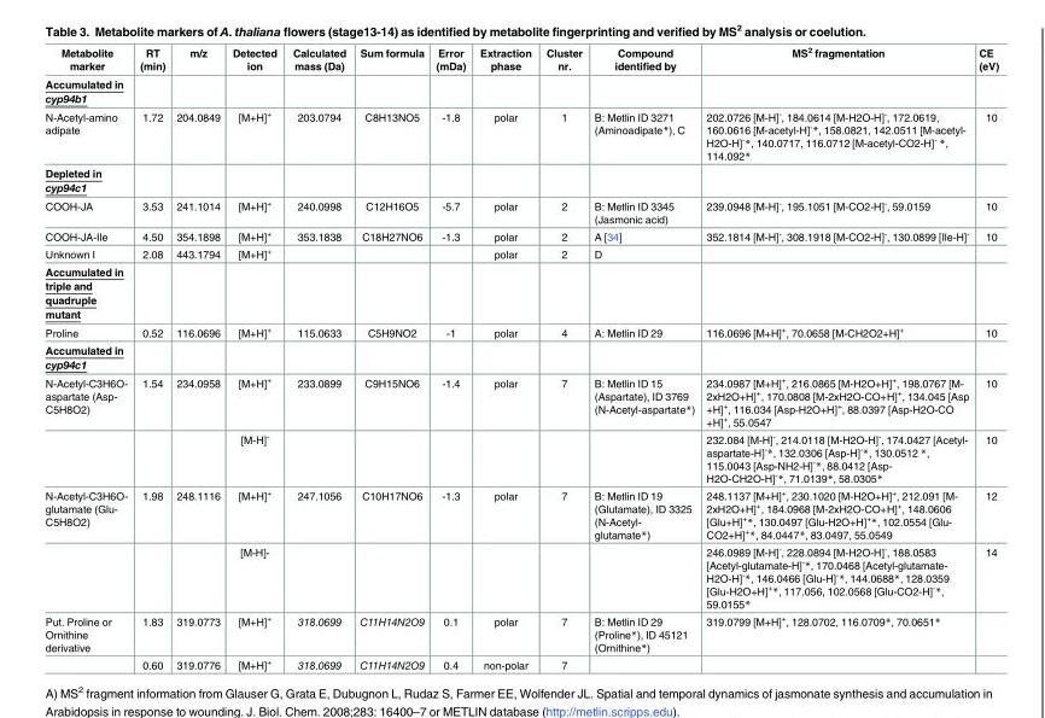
<table><thead><tr><td>Metabolite marker</td><td>RT (min)</td><td>m/z</td><td>Detected ion</td><td>Calculated mass (Da)</td><td>Sum formula</td><td>Error (mDa)</td><td>Extraction phase</td><td>Cluster nr.</td><td>Compound identified by</td><td>MS<sup>2</sup> fragmentation</td><td>CE (eV)</td></tr></thead><tbody><tr><td colspan="12">Accumulated in cyp94b1</td></tr><tr><td>N-Acetyl-amino adipate</td><td>1.72</td><td>204.0849</td><td>[M+H]<sup>+</sup></td><td>203.0794</td><td>C8H13NO5</td><td>-1.8</td><td>polar</td><td>1</td><td>B: Metlin ID 3271 (Aminoadipate*), C</td><td>202.0726 [M-H]<sup>-</sup>, 184.0614 [M-H2O-H]<sup>-</sup>, 172.0619, 160.0616 [M-acetyl-H]<sup>-</sup>*, 158.0821, 142.0511 [M-acetyl- H2O-H]<sup>-</sup>*, 140.0717, 116.0712 [M-acetyl-CO2-H]<sup>-</sup> *, 114.092*</td><td>10</td></tr><tr><td colspan="12">Depleted in cyp94c1</td></tr><tr><td>COOH-JA</td><td>3.53</td><td>241.1014</td><td>[M+H]<sup>+</sup></td><td>240.0998</td><td>C12H16O5</td><td>-5.7</td><td>polar</td><td>2</td><td>B: Metlin ID 3345 (Jasmonic acid)</td><td>239.0948 [M-H]<sup>-</sup>, 195.1051 [M-CO2-H]<sup>-</sup>, 59.0159</td><td>10</td></tr><tr><td>COOH-JA-Ile</td><td>4.50</td><td>354.1898</td><td>[M+H]<sup>+</sup></td><td>353.1838</td><td>C18H27NO6</td><td>-1.3</td><td>polar</td><td>2</td><td>A [34]</td><td>352.1814 [M-H]<sup>-</sup>, 308.1918 [M-CO2-H]<sup>-</sup>, 130.0899 [Ile-H]<sup>-</sup></td><td>10</td></tr><tr><td>Unknown I</td><td>2.08</td><td>443.1794</td><td>[M+H]<sup>+</sup></td><td></td><td></td><td></td><td>polar</td><td>2</td><td>D</td><td></td><td></td></tr><tr><td colspan="12">Accumulated in triple and quadruple mutant</td></tr><tr><td>Proline</td><td>0.52</td><td>116.0696</td><td>[M+H]<sup>+</sup></td><td>115.0633</td><td>C5H9NO2</td><td>-1</td><td>polar</td><td>4</td><td>A: Metlin ID 29</td><td>116.0696 [M+H]<sup>+</sup>, 70.0658 [M-CH2O2+H]<sup>+</sup></td><td>10</td></tr><tr><td colspan="12">Accumulated in cyp94c1</td></tr><tr><td rowspan="2">N-Acetyl-C3H6O- aspartate (Asp- C5H8O2)</td><td>1.54</td><td>234.0958</td><td>[M+H]<sup>+</sup></td><td>233.0899</td><td>C9H15NO6</td><td>-1.4</td><td>polar</td><td>7</td><td>B: Metlin ID 15 (Aspartate), ID 3769 (N-Acetyl-aspartate*)</td><td>234.0987 [M+H]<sup>+</sup>, 216.0865 [M-H2O+H]<sup>+</sup>, 198.0767 [M- 2xH2O+H]<sup>+</sup>, 170.0808 [M-2xH2O-CO+H]<sup>+</sup>, 134.045 [Asp +H]<sup>+</sup>, 116.034 [Asp-H2O+H]<sup>+</sup>, 88.0397 [Asp-H2O-CO +H]<sup>+</sup>, 55.0547</td><td>10</td></tr><tr><td></td><td></td><td>[M-H]<sup>-</sup></td><td></td><td></td><td></td><td></td><td></td><td></td><td>232.084 [M-H]<sup>-</sup>, 214.0118 [M-H2O-H]<sup>-</sup>, 174.0427 [Acetyl- aspartate-H]<sup>-</sup>*, 132.0306 [Asp-H]<sup>-</sup>*, 130.0512 *, 115.0043 [Asp-NH2-H]<sup>-</sup>*, 88.0412 [Asp- H2O-CH2O-H]<sup>-</sup>*, 71.0139*, 58.0305*</td><td>10</td></tr><tr><td rowspan="2">N-Acetyl-C3H6O- glutamate (Glu- C5H8O2)</td><td>1.98</td><td>248.1116</td><td>[M+H]<sup>+</sup></td><td>247.1056</td><td>C10H17NO6</td><td>-1.3</td><td>polar</td><td>7</td><td>B: Metlin ID 19 (Glutamate), ID 3325 (N-Acetyl- glutamate*)</td><td>248.1137 [M+H]<sup>+</sup>, 230.1020 [M-H2O+H]<sup>+</sup>, 212.091 [M- 2xH2O+H]<sup>+</sup>, 184.0968 [M-2xH2O-CO+H]<sup>+</sup>, 148.0606 [Glu+H]<sup>+</sup>*, 130.0497 [Glu-H2O+H]<sup>+</sup>*, 102.0554 [Glu- CO2+H]<sup>+</sup>*, 84.0447*, 83.0497, 55.0549</td><td>12</td></tr><tr><td></td><td></td><td>[M-H]-</td><td></td><td></td><td></td><td></td><td></td><td></td><td>246.0989 [M-H]<sup>-</sup>, 228.0894 [M-H2O-H]<sup>-</sup>, 188.0583 [Acetyl-glutamate-H]<sup>-</sup>*, 170.0468 [Acetyl-glutamate- H2O-H]<sup>-</sup>*, 146.0466 [Glu-H]<sup>-</sup>*, 144.0688*, 128.0359 [Glu-H2O+H]<sup>+</sup>*, 117.056, 102.0568 [Glu-CO2-H]<sup>-</sup>*, 59.0155*</td><td>14</td></tr><tr><td rowspan="2">Put. Proline or Ornithine derivative</td><td>1.83</td><td>319.0773</td><td>[M+H]<sup>+</sup></td><td>318.0699</td><td>C11H14N2O9</td><td>0.1</td><td>polar</td><td>7</td><td>B: Metlin ID 29 (Proline*), ID 45121 (Ornithine*)</td><td>319.0799 [M+H]<sup>+</sup>, 128.0702, 116.0709*, 70.0651*</td><td></td></tr><tr><td>0.60</td><td>319.0776</td><td>[M+H]<sup>+</sup></td><td>318.0699</td><td>C11H14N2O9</td><td>0.4</td><td>non-polar</td><td>7</td><td></td><td></td><td></td></tr></tbody></table>